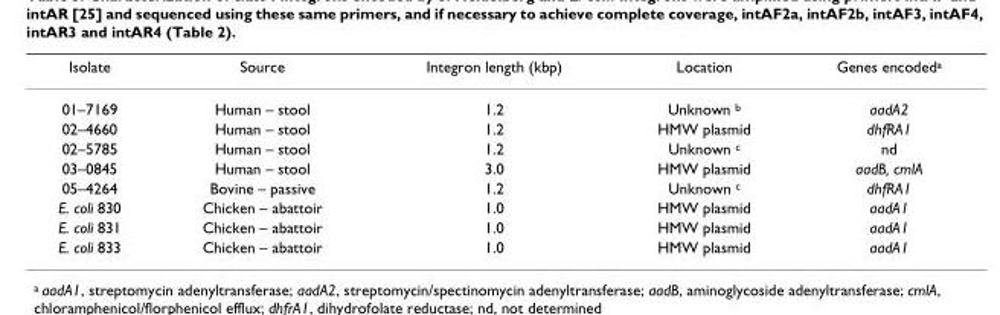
<table><thead><tr><td>Isolate</td><td>Source</td><td>Integron length (kbp)</td><td>Location</td><td>Genes encoded<sup>a</sup></td></tr></thead><tbody><tr><td>01–7169</td><td>Human – stool</td><td>1.2</td><td>Unknown <sup>b</sup></td><td>aadA2</td></tr><tr><td>02–4660</td><td>Human – stool</td><td>1.2</td><td>HMW plasmid</td><td>dhfRA1</td></tr><tr><td>02–5785</td><td>Human – stool</td><td>1.2</td><td>Unknown <sup>c</sup></td><td>nd</td></tr><tr><td>03–0845</td><td>Human – stool</td><td>3.0</td><td>HMW plasmid</td><td>aadB, cmlA</td></tr><tr><td>05–4264</td><td>Bovine – passive</td><td>1.2</td><td>Unknown <sup>c</sup></td><td>dhfRA1</td></tr><tr><td>E. coli 830</td><td>Chicken – abattoir</td><td>1.0</td><td>HMW plasmid</td><td>aadA1</td></tr><tr><td>E. coli 831</td><td>Chicken – abattoir</td><td>1.0</td><td>HMW plasmid</td><td>aadA1</td></tr><tr><td>E. coli 833</td><td>Chicken – abattoir</td><td>1.0</td><td>HMW plasmid</td><td>aadA1</td></tr></tbody></table>